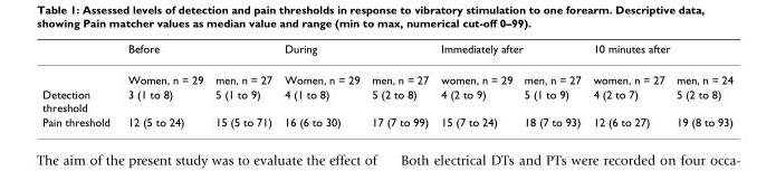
<table><thead><tr><td rowspan="2"></td><td colspan="2">Before</td><td colspan="2">During</td><td colspan="2">Immediately after</td><td colspan="2">10 minutes after</td></tr><tr><td>Women, n = 29</td><td>men, n = 27</td><td>Women, n = 29</td><td>men, n = 27</td><td>women, n = 29</td><td>men, n = 27</td><td>women, n = 27</td><td>men, n = 24</td></tr></thead><tbody><tr><td>Detection threshold</td><td>3 (1 to 8)</td><td>5 (1 to 9)</td><td>4 (1 to 8)</td><td>5 (2 to 8)</td><td>4 (2 to 9)</td><td>5 (1 to 9)</td><td>4 (2 to 7)</td><td>5 (2 to 8)</td></tr><tr><td>Pain threshold</td><td>12 (5 to 24)</td><td>15 (5 to 71)</td><td>16 (6 to 30)</td><td>17 (7 to 99)</td><td>15 (7 to 24)</td><td>18 (7 to 93)</td><td>12 (6 to 27)</td><td>19 (8 to 93)</td></tr></tbody></table>